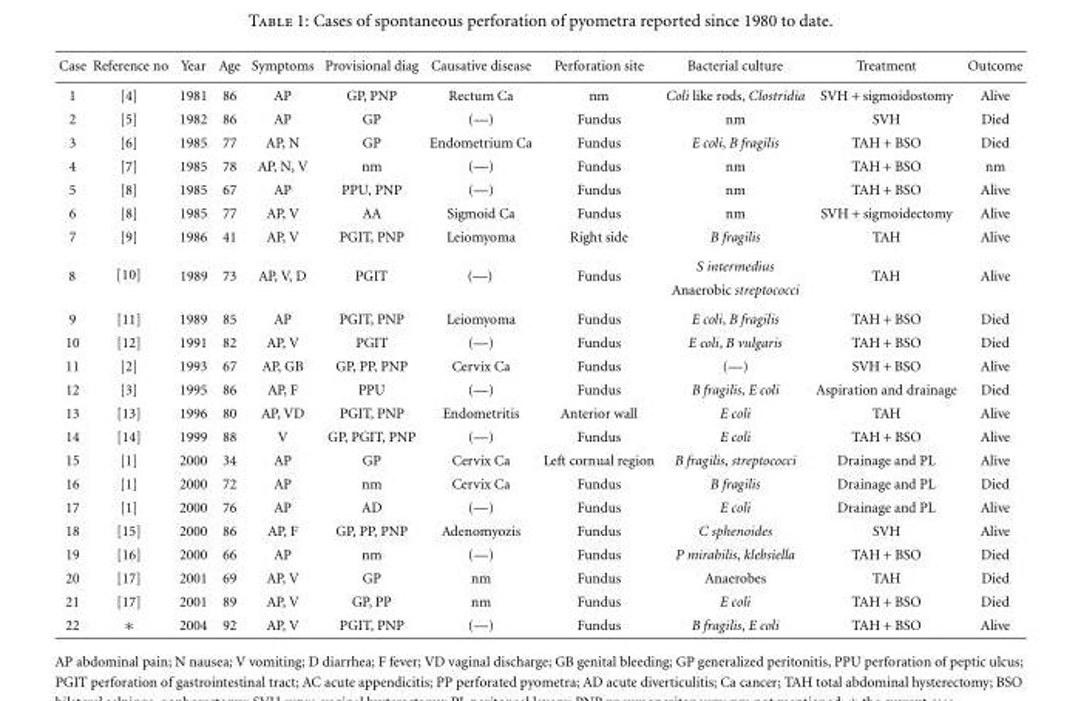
<table><tbody><tr><td>Case</td><td>Reference no</td><td>Year</td><td>Age</td><td>Symptoms</td><td>Provisional diag</td><td>Causative disease</td><td>Perforation site</td><td>Bacterial culture</td><td>Treatment</td><td>Outcome</td></tr><tr><td>1</td><td>[4]</td><td>1981</td><td>86</td><td>AP</td><td>GP, PNP</td><td>Rectum Ca</td><td>nm</td><td>Coli like rods, Clostridia</td><td>SVH + sigmoidostomy</td><td>Alive</td></tr><tr><td>2</td><td>[5]</td><td>1982</td><td>86</td><td>AP</td><td>GP</td><td>(—)</td><td>Fundus</td><td>nm</td><td>SVH</td><td>Died</td></tr><tr><td>3</td><td>[6]</td><td>1985</td><td>77</td><td>AP, N</td><td>GP</td><td>Endometrium Ca</td><td>Fundus</td><td>E coli, B fragilis</td><td>TAH + BSO</td><td>Died</td></tr><tr><td>4</td><td>[7]</td><td>1985</td><td>78</td><td>AP, N, V</td><td>nm</td><td>(—)</td><td>Fundus</td><td>nm</td><td>TAH + BSO</td><td>nm</td></tr><tr><td>5</td><td>[8]</td><td>1985</td><td>67</td><td>AP</td><td>PPU, PNP</td><td>(—)</td><td>Fundus</td><td>nm</td><td>TAH + BSO</td><td>Alive</td></tr><tr><td>6</td><td>[8]</td><td>1985</td><td>77</td><td>AP, V</td><td>AA</td><td>Sigmoid Ca</td><td>Fundus</td><td>nm</td><td>SVH + sigmoidectomy</td><td>Alive</td></tr><tr><td>7</td><td>[9]</td><td>1986</td><td>41</td><td>AP, V</td><td>PGIT, PNP</td><td>Leiomyoma</td><td>Right side</td><td>B fragilis</td><td>TAH</td><td>Alive</td></tr><tr><td rowspan="2">8</td><td rowspan="2">[10]</td><td rowspan="2">1989</td><td rowspan="2">73</td><td rowspan="2">AP, V, D</td><td rowspan="2">PGIT</td><td rowspan="2">(—)</td><td rowspan="2">Fundus</td><td>S intermedius</td><td rowspan="2">TAH</td><td rowspan="2">Alive</td></tr><tr><td>Anaerobic streptococci</td></tr><tr><td>9</td><td>[11]</td><td>1989</td><td>85</td><td>AP</td><td>PGIT, PNP</td><td>Leiomyoma</td><td>Fundus</td><td>E coli, B fragilis</td><td>TAH + BSO</td><td>Died</td></tr><tr><td>10</td><td>[12]</td><td>1991</td><td>82</td><td>AP, V</td><td>PGIT</td><td>(—)</td><td>Fundus</td><td>E coli, B vulgaris</td><td>TAH + BSO</td><td>Died</td></tr><tr><td>11</td><td>[2]</td><td>1993</td><td>67</td><td>AP, GB</td><td>GP, PP, PNP</td><td>Cervix Ca</td><td>Fundus</td><td>(—)</td><td>SVH + BSO</td><td>Alive</td></tr><tr><td>12</td><td>[3]</td><td>1995</td><td>86</td><td>AP, F</td><td>PPU</td><td>(—)</td><td>Fundus</td><td>B fragilis, E coli</td><td>Aspiration and drainage</td><td>Died</td></tr><tr><td>13</td><td>[13]</td><td>1996</td><td>80</td><td>AP, VD</td><td>PGIT, PNP</td><td>Endometritis</td><td>Anterior wall</td><td>E coli</td><td>TAH</td><td>Alive</td></tr><tr><td>14</td><td>[14]</td><td>1999</td><td>88</td><td>V</td><td>GP, PGIT, PNP</td><td>(—)</td><td>Fundus</td><td>E coli</td><td>TAH + BSO</td><td>Alive</td></tr><tr><td>15</td><td>[1]</td><td>2000</td><td>34</td><td>AP</td><td>GP</td><td>Cervix Ca</td><td>Left cornual region</td><td>B fragilis, streptococci</td><td>Drainage and PL</td><td>Alive</td></tr><tr><td>16</td><td>[1]</td><td>2000</td><td>72</td><td>AP</td><td>nm</td><td>Cervix Ca</td><td>Fundus</td><td>B fragilis</td><td>Drainage and PL</td><td>Died</td></tr><tr><td>17</td><td>[1]</td><td>2000</td><td>76</td><td>AP</td><td>AD</td><td>(—)</td><td>Fundus</td><td>E coli</td><td>Drainage and PL</td><td>Alive</td></tr><tr><td>18</td><td>[15]</td><td>2000</td><td>86</td><td>AP, F</td><td>GP, PP, PNP</td><td>Adenomyozis</td><td>Fundus</td><td>C sphenoides</td><td>SVH</td><td>Alive</td></tr><tr><td>19</td><td>[16]</td><td>2000</td><td>66</td><td>AP</td><td>nm</td><td>(—)</td><td>Fundus</td><td>P mirabilis, klebsiella</td><td>TAH + BSO</td><td>Died</td></tr><tr><td>20</td><td>[17]</td><td>2001</td><td>69</td><td>AP, V</td><td>GP</td><td>nm</td><td>Fundus</td><td>Anaerobes</td><td>TAH</td><td>Died</td></tr><tr><td>21</td><td>[17]</td><td>2001</td><td>89</td><td>AP, V</td><td>GP, PP</td><td>nm</td><td>Fundus</td><td>E coli</td><td>TAH + BSO</td><td>Died</td></tr><tr><td>22</td><td>∗</td><td>2004</td><td>92</td><td>AP, V</td><td>PGIT, PNP</td><td>(—)</td><td>Fundus</td><td>B fragilis, E coli</td><td>TAH + BSO</td><td>Alive</td></tr></tbody></table>